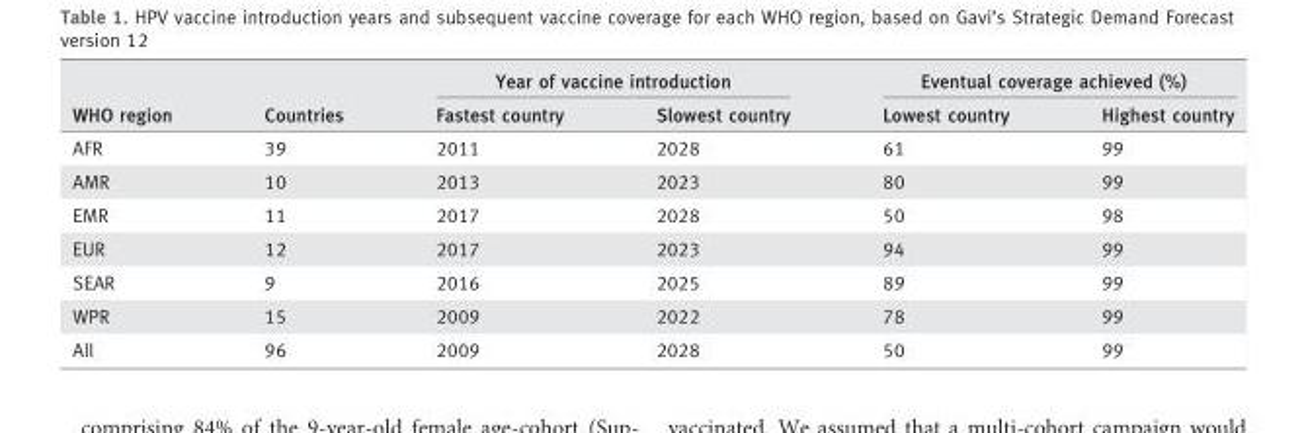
<table><thead><tr><td rowspan="2">WHO region</td><td rowspan="2">Countries</td><td colspan="2">Year of vaccine introduction</td><td colspan="2">Eventual coverage achieved (%)</td></tr><tr><td>Fastest country</td><td>Slowest country</td><td>Lowest country</td><td>Highest country</td></tr></thead><tbody><tr><td>AFR</td><td>39</td><td>2011</td><td>2028</td><td>61</td><td>99</td></tr><tr><td>AMR</td><td>10</td><td>2013</td><td>2023</td><td>80</td><td>99</td></tr><tr><td>EMR</td><td>11</td><td>2017</td><td>2028</td><td>50</td><td>98</td></tr><tr><td>EUR</td><td>12</td><td>2017</td><td>2023</td><td>94</td><td>99</td></tr><tr><td>SEAR</td><td>9</td><td>2016</td><td>2025</td><td>89</td><td>99</td></tr><tr><td>WPR</td><td>15</td><td>2009</td><td>2022</td><td>78</td><td>99</td></tr><tr><td>All</td><td>96</td><td>2009</td><td>2028</td><td>50</td><td>99</td></tr></tbody></table>